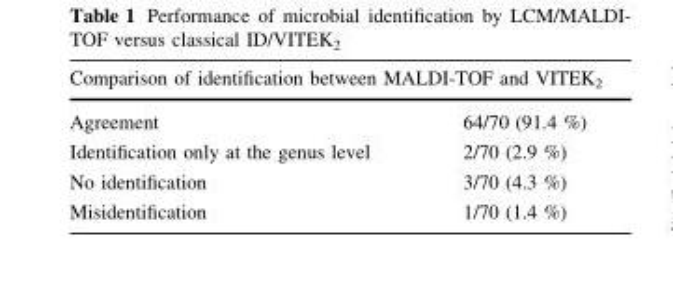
<table><thead><tr><td colspan="2">Comparison of identification between MALDI-TOF and VITEK<sub>2</sub></td></tr><tr><td>Agreement</td><td>64/70 (91.4 %)</td></tr></thead><tbody><tr><td>Identification only at the genus level</td><td>2/70 (2.9 %)</td></tr><tr><td>No identification</td><td>3/70 (4.3 %)</td></tr><tr><td>Misidentification</td><td>1/70 (1.4 %)</td></tr></tbody></table>